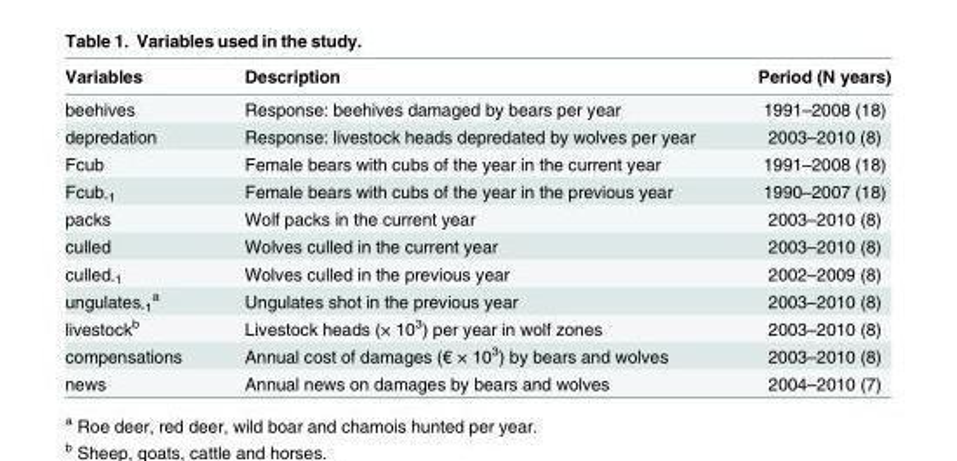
<table><thead><tr><td>Variables</td><td>Description</td><td>Period (N years)</td></tr></thead><tbody><tr><td>beehives</td><td>Response: beehives damaged by bears per year</td><td>1991–2008 (18)</td></tr><tr><td>depredation</td><td>Response: livestock heads depredated by wolves per year</td><td>2003–2010 (8)</td></tr><tr><td>Fcub</td><td>Female bears with cubs of the year in the current year</td><td>1991–2008 (18)</td></tr><tr><td>Fcub<sub>-1</sub></td><td>Female bears with cubs of the year in the previous year</td><td>1990–2007 (18)</td></tr><tr><td>packs</td><td>Wolf packs in the current year</td><td>2003–2010 (8)</td></tr><tr><td>culled</td><td>Wolves culled in the current year</td><td>2003–2010 (8)</td></tr><tr><td>culled<sub>-1</sub></td><td>Wolves culled in the previous year</td><td>2002–2009 (8)</td></tr><tr><td>ungulates<sub>-1</sub> <sup>a</sup></td><td>Ungulates shot in the previous year</td><td>2003–2010 (8)</td></tr><tr><td>livestock<sup>b</sup></td><td>Livestock heads (× 10<sup>3</sup>) per year in wolf zones</td><td>2003–2010 (8)</td></tr><tr><td>compensations</td><td>Annual cost of damages (€ × 10<sup>3</sup>) by bears and wolves</td><td>2003–2010 (8)</td></tr><tr><td>news</td><td>Annual news on damages by bears and wolves</td><td>2004–2010 (7)</td></tr></tbody></table>